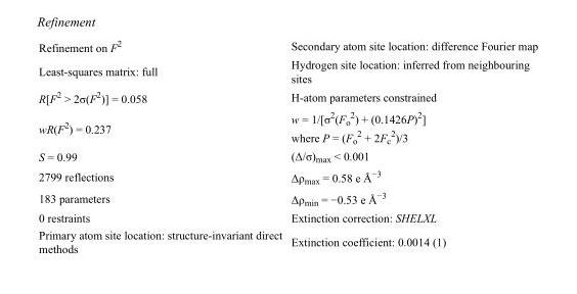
<table><tbody><tr><td>Refinement on F<sup>2</sup></td><td>Secondary atom site location: difference Fourier map</td></tr><tr><td>Least-squares matrix: full</td><td>Hydrogen site location: inferred from neighbouring sites</td></tr><tr><td>R[F<sup>2</sup> &gt; 2σ(F<sup>2</sup>)] = 0.058</td><td>H-atom parameters constrained</td></tr><tr><td>wR(F<sup>2</sup>) = 0.237</td><td>w = 1/[σ<sup>2</sup>(F<sub>o</sub> <sup>2</sup>) + (0.1426P)<sup>2</sup>] where P = (F<sub>o</sub> <sup>2</sup> + 2F<sub>c</sub> <sup>2</sup>)/3</td></tr><tr><td>S = 0.99</td><td>(Δ/σ)<sub>max</sub> &lt; 0.001</td></tr><tr><td>2799 reflections</td><td>Δρ<sub>max</sub> = 0.58 e Å<sup>−3</sup></td></tr><tr><td>183 parameters</td><td>Δρ<sub>min</sub> = −0.53 e Å<sup>−3</sup></td></tr><tr><td>0 restraints</td><td>Extinction correction: SHELXL</td></tr><tr><td>Primary atom site location: structure-invariant direct methods</td><td>Extinction coefficient: 0.0014 (1)</td></tr></tbody></table>